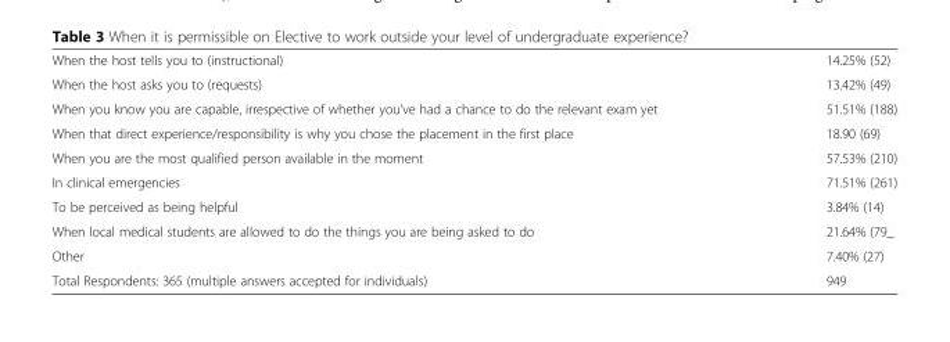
<table><tbody><tr><td>When the host tells you to (instructional)</td><td>14.25% (52)</td></tr><tr><td>When the host asks you to (requests)</td><td>13.42% (49)</td></tr><tr><td>When you know you are capable, irrespective of whether you’ve had a chance to do the relevant exam yet</td><td>51.51% (188)</td></tr><tr><td>When that direct experience/responsibility is why you chose the placement in the first place</td><td>18.90 (69)</td></tr><tr><td>When you are the most qualified person available in the moment</td><td>57.53% (210)</td></tr><tr><td>In clinical emergencies</td><td>71.51% (261)</td></tr><tr><td>To be perceived as being helpful</td><td>3.84% (14)</td></tr><tr><td>When local medical students are allowed to do the things you are being asked to do</td><td>21.64% (79_</td></tr><tr><td>Other</td><td>7.40% (27)</td></tr><tr><td>Total Respondents: 365 (multiple answers accepted for individuals)</td><td>949</td></tr></tbody></table>